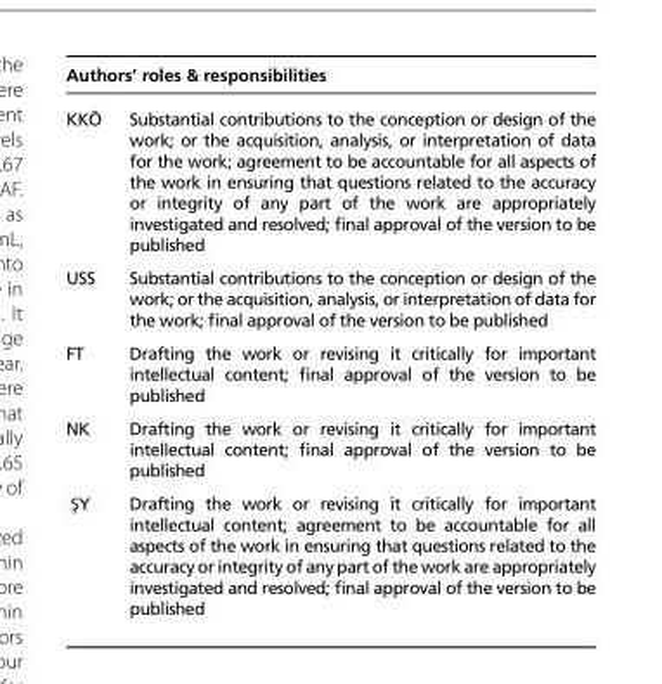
<table><thead><tr><td colspan="2">Authors’ roles &amp; responsibilities</td></tr><tr><td>KKÖ</td><td>Substantial contributions to the conception or design of the work; or the acquisition, analysis, or interpretation of data for the work; agreement to be accountable for all aspects of the work in ensuring that questions related to the accuracy or integrity of any part of the work are appropriately investigated and resolved; final approval of the version to be published</td></tr></thead><tbody><tr><td>USS</td><td>Substantial contributions to the conception or design of the work; or the acquisition, analysis, or interpretation of data for the work; final approval of the version to be published</td></tr><tr><td>FT</td><td>Drafting the work or revising it critically for important intellectual content; final approval of the version to be published</td></tr><tr><td>NK</td><td>Drafting the work or revising it critically for important intellectual content; final approval of the version to be published</td></tr><tr><td>ŞŞY</td><td>Drafting the work or revising it critically for important intellectual content; agreement to be accountable for all aspects of the work in ensuring that questions related to the accuracy or integrity of any part of the work are appropriately investigated and resolved; final approval of the version to be published</td></tr></tbody></table>